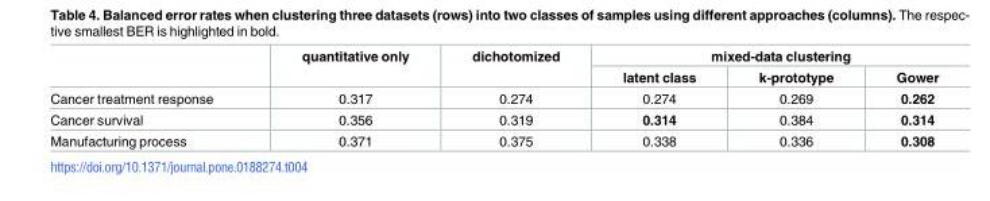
<table><thead><tr><td rowspan="2"></td><td rowspan="2">quantitative only</td><td rowspan="2">dichotomized</td><td colspan="3">mixed-data clustering</td></tr><tr><td>latent class</td><td>k-prototype</td><td>Gower</td></tr></thead><tbody><tr><td>Cancer treatment response</td><td>0.317</td><td>0.274</td><td>0.274</td><td>0.269</td><td>0.262</td></tr><tr><td>Cancer survival</td><td>0.356</td><td>0.319</td><td>0.314</td><td>0.384</td><td>0.314</td></tr><tr><td>Manufacturing process</td><td>0.371</td><td>0.375</td><td>0.338</td><td>0.336</td><td>0.308</td></tr></tbody></table>